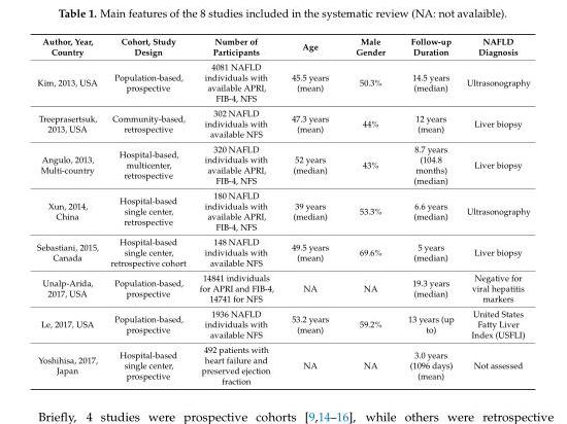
<table><thead><tr><td>Author, Year, Country</td><td>Cohort, Study Design</td><td>Number of Participants</td><td>Age</td><td>Male Gender</td><td>Follow-up Duration</td><td>NAFLD Diagnosis</td></tr></thead><tbody><tr><td>Kim, 2013, USA</td><td>Population-based, prospective</td><td>4081 NAFLD individuals with available APRI, FIB-4, NFS</td><td>45.5 years (mean)</td><td>50.3%</td><td>14.5 years (median)</td><td>Ultrasonography</td></tr><tr><td>Treeprasertsuk, 2013, USA</td><td>Community-based, retrospective</td><td>302 NAFLD individuals with available NFS</td><td>47.3 years (mean)</td><td>44%</td><td>12 years (mean)</td><td>Liver biopsy</td></tr><tr><td>Angulo, 2013, Multi-country</td><td>Hospital-based, multicenter, retrospective</td><td>320 NAFLD individuals with available APRI, FIB-4, NFS</td><td>52 years (median)</td><td>43%</td><td>8.7 years (104.8 months) (median)</td><td>Liver biopsy</td></tr><tr><td>Xun, 2014, China</td><td>Hospital-based single center, retrospective</td><td>180 NAFLD individuals with available APRI, FIB-4, NFS</td><td>39 years (median)</td><td>53.3%</td><td>6.6 years (median)</td><td>Ultrasonography</td></tr><tr><td>Sebastiani, 2015, Canada</td><td>Hospital-based single center, retrospective cohort</td><td>148 NAFLD individuals with available NFS</td><td>49.5 years (mean)</td><td>69.6%</td><td>5 years (median)</td><td>Liver biopsy</td></tr><tr><td>Unalp-Arida, 2017, USA</td><td>Population-based, prospective</td><td>14841 individuals for APRI and FIB-4, 14741 for NFS</td><td>NA</td><td>NA</td><td>19.3 years (median)</td><td>Negative for viral hepatitis markers</td></tr><tr><td>Le, 2017, USA</td><td>Population-based, prospective</td><td>1936 NAFLD individuals with available NFS</td><td>53.2 years (mean)</td><td>59.2%</td><td>13 years (up to)</td><td>United States Fatty Liver Index (USFLI)</td></tr><tr><td>Yoshihisa, 2017, Japan</td><td>Hospital-based single center, prospective</td><td>492 patients with heart failure and preserved ejection fraction</td><td>NA</td><td>NA</td><td>3.0 years (1096 days) (mean)</td><td>Not assessed</td></tr></tbody></table>